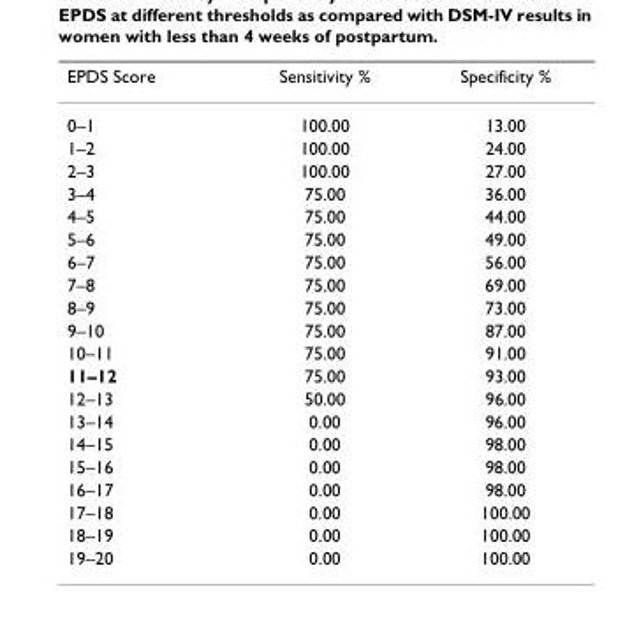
<table><thead><tr><td>EPDS Score</td><td>Sensitivity %</td><td>Specificity %</td></tr></thead><tbody><tr><td>0–1</td><td>100.00</td><td>13.00</td></tr><tr><td>1–2</td><td>100.00</td><td>24.00</td></tr><tr><td>2–3</td><td>100.00</td><td>27.00</td></tr><tr><td>3–4</td><td>75.00</td><td>36.00</td></tr><tr><td>4–5</td><td>75.00</td><td>44.00</td></tr><tr><td>5–6</td><td>75.00</td><td>49.00</td></tr><tr><td>6–7</td><td>75.00</td><td>56.00</td></tr><tr><td>7–8</td><td>75.00</td><td>69.00</td></tr><tr><td>8–9</td><td>75.00</td><td>73.00</td></tr><tr><td>9–10</td><td>75.00</td><td>87.00</td></tr><tr><td>10–11</td><td>75.00</td><td>91.00</td></tr><tr><td>11–12</td><td>75.00</td><td>93.00</td></tr><tr><td>12–13</td><td>50.00</td><td>96.00</td></tr><tr><td>13–14</td><td>0.00</td><td>96.00</td></tr><tr><td>14–15</td><td>0.00</td><td>98.00</td></tr><tr><td>15–16</td><td>0.00</td><td>98.00</td></tr><tr><td>16–17</td><td>0.00</td><td>98.00</td></tr><tr><td>17–18</td><td>0.00</td><td>100.00</td></tr><tr><td>18–19</td><td>0.00</td><td>100.00</td></tr><tr><td>19–20</td><td>0.00</td><td>100.00</td></tr></tbody></table>